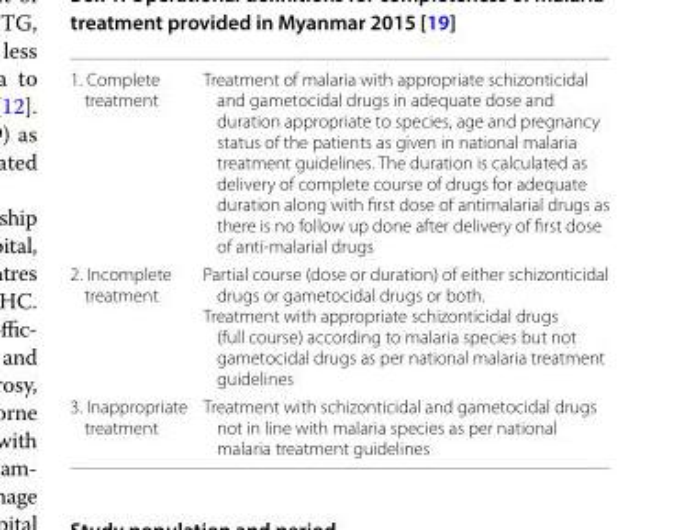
<table><tbody><tr><td>1. Complete treatment</td><td>Treatment of malaria with appropriate schizonticidal and gametocidal drugs in adequate dose and duration appropriate to species, age and pregnancy status of the patients as given in national malaria treatment guidelines. The duration is calculated as delivery of complete course of drugs for adequate duration along with first dose of antimalarial drugs as there is no follow up done after delivery of first dose of anti-malarial drugs</td></tr><tr><td>2. Incomplete treatment</td><td>Partial course (dose or duration) of either schizonticidal drugs or gametocidal drugs or both. Treatment with appropriate schizonticidal drugs (full course) according to malaria species but not gametocidal drugs as per national malaria treatment guidelines</td></tr><tr><td>3. Inappropriate treatment</td><td>Treatment with schizonticidal and gametocidal drugs not in line with malaria species as per national malaria treatment guidelines</td></tr></tbody></table>